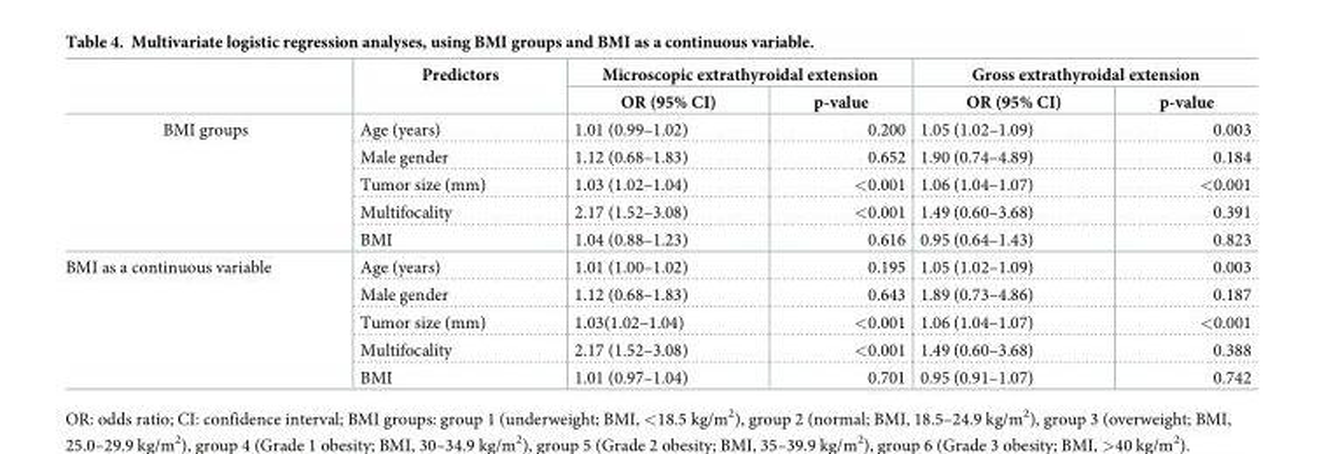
<table><thead><tr><td rowspan="2"></td><td rowspan="2">Predictors</td><td colspan="2">Microscopic extrathyroidal extension</td><td colspan="2">Gross extrathyroidal extension</td></tr><tr><td>OR (95% CI)</td><td>p-value</td><td>OR (95% CI)</td><td>p-value</td></tr></thead><tbody><tr><td rowspan="5">BMI groups</td><td>Age (years)</td><td>1.01 (0.99–1.02)</td><td>0.200</td><td>1.05 (1.02–1.09)</td><td>0.003</td></tr><tr><td>Male gender</td><td>1.12 (0.68–1.83)</td><td>0.652</td><td>1.90 (0.74–4.89)</td><td>0.184</td></tr><tr><td>Tumor size (mm)</td><td>1.03 (1.02–1.04)</td><td>&lt;0.001</td><td>1.06 (1.04–1.07)</td><td>&lt;0.001</td></tr><tr><td>Multifocality</td><td>2.17 (1.52–3.08)</td><td>&lt;0.001</td><td>1.49 (0.60–3.68)</td><td>0.391</td></tr><tr><td>BMI</td><td>1.04 (0.88–1.23)</td><td>0.616</td><td>0.95 (0.64–1.43)</td><td>0.823</td></tr><tr><td rowspan="5">BMI as a continuous variable</td><td>Age (years)</td><td>1.01 (1.00–1.02)</td><td>0.195</td><td>1.05 (1.02–1.09)</td><td>0.003</td></tr><tr><td>Male gender</td><td>1.12 (0.68–1.83)</td><td>0.643</td><td>1.89 (0.73–4.86)</td><td>0.187</td></tr><tr><td>Tumor size (mm)</td><td>1.03(1.02–1.04)</td><td>&lt;0.001</td><td>1.06 (1.04–1.07)</td><td>&lt;0.001</td></tr><tr><td>Multifocality</td><td>2.17 (1.52–3.08)</td><td>&lt;0.001</td><td>1.49 (0.60–3.68)</td><td>0.388</td></tr><tr><td>BMI</td><td>1.01 (0.97–1.04)</td><td>0.701</td><td>0.95 (0.91–1.07)</td><td>0.742</td></tr></tbody></table>